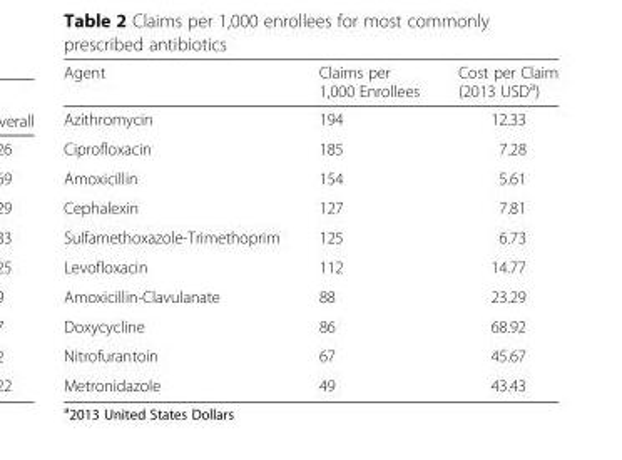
<table><thead><tr><td>Agent</td><td>Claims per 1,000 Enrollees</td><td>Cost per Claim (2013 USD<sup>a</sup>)</td></tr></thead><tbody><tr><td>Azithromycin</td><td>194</td><td>12.33</td></tr><tr><td>Ciprofloxacin</td><td>185</td><td>7.28</td></tr><tr><td>Amoxicillin</td><td>154</td><td>5.61</td></tr><tr><td>Cephalexin</td><td>127</td><td>7.81</td></tr><tr><td>Sulfamethoxazole-Trimethoprim</td><td>125</td><td>6.73</td></tr><tr><td>Levofloxacin</td><td>112</td><td>14.77</td></tr><tr><td>Amoxicillin-Clavulanate</td><td>88</td><td>23.29</td></tr><tr><td>Doxycycline</td><td>86</td><td>68.92</td></tr><tr><td>Nitrofurantoin</td><td>67</td><td>45.67</td></tr><tr><td>Metronidazole</td><td>49</td><td>43.43</td></tr></tbody></table>